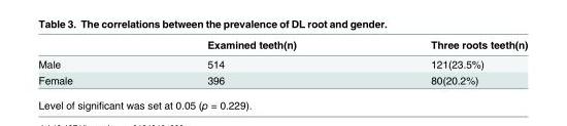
<table><thead><tr><td></td><td>Examined teeth(n)</td><td>Three roots teeth(n)</td></tr></thead><tbody><tr><td>Male</td><td>514</td><td>121(23.5%)</td></tr><tr><td>Female</td><td>396</td><td>80(20.2%)</td></tr></tbody></table>